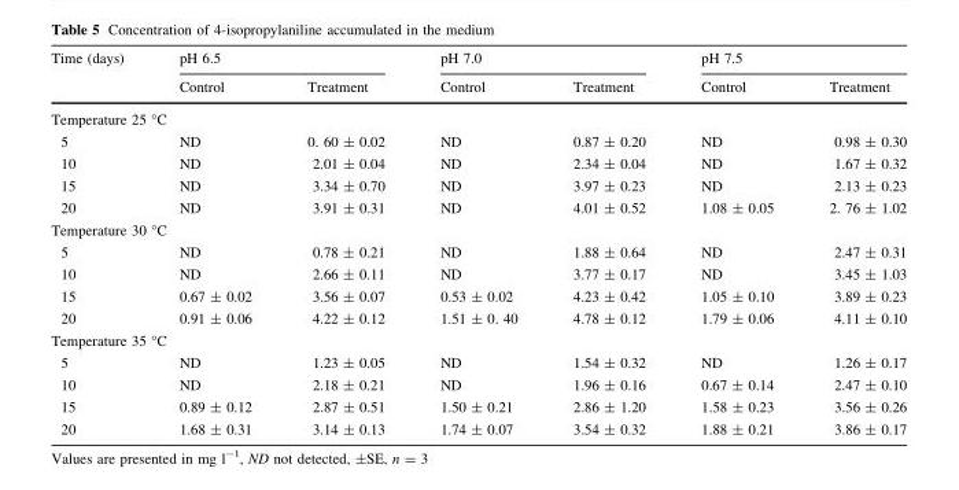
<table><thead><tr><td rowspan="2">Time (days)</td><td colspan="2">pH 6.5</td><td colspan="2">pH 7.0</td><td colspan="2">pH 7.5</td></tr><tr><td>Control</td><td>Treatment</td><td>Control</td><td>Treatment</td><td>Control</td><td>Treatment</td></tr></thead><tbody><tr><td colspan="7">Temperature 25 °C</td></tr><tr><td>5</td><td>ND</td><td>0. 60 ± 0.02</td><td>ND</td><td>0.87 ± 0.20</td><td>ND</td><td>0.98 ± 0.30</td></tr><tr><td>10</td><td>ND</td><td>2.01 ± 0.04</td><td>ND</td><td>2.34 ± 0.04</td><td>ND</td><td>1.67 ± 0.32</td></tr><tr><td>15</td><td>ND</td><td>3.34 ± 0.70</td><td>ND</td><td>3.97 ± 0.23</td><td>ND</td><td>2.13 ± 0.23</td></tr><tr><td>20</td><td>ND</td><td>3.91 ± 0.31</td><td>ND</td><td>4.01 ± 0.52</td><td>1.08 ± 0.05</td><td>2. 76 ± 1.02</td></tr><tr><td colspan="7">Temperature 30 °C</td></tr><tr><td>5</td><td>ND</td><td>0.78 ± 0.21</td><td>ND</td><td>1.88 ± 0.64</td><td>ND</td><td>2.47 ± 0.31</td></tr><tr><td>10</td><td>ND</td><td>2.66 ± 0.11</td><td>ND</td><td>3.77 ± 0.17</td><td>ND</td><td>3.45 ± 1.03</td></tr><tr><td>15</td><td>0.67 ± 0.02</td><td>3.56 ± 0.07</td><td>0.53 ± 0.02</td><td>4.23 ± 0.42</td><td>1.05 ± 0.10</td><td>3.89 ± 0.23</td></tr><tr><td>20</td><td>0.91 ± 0.06</td><td>4.22 ± 0.12</td><td>1.51 ± 0. 40</td><td>4.78 ± 0.12</td><td>1.79 ± 0.06</td><td>4.11 ± 0.10</td></tr><tr><td colspan="7">Temperature 35 °C</td></tr><tr><td>5</td><td>ND</td><td>1.23 ± 0.05</td><td>ND</td><td>1.54 ± 0.32</td><td>ND</td><td>1.26 ± 0.17</td></tr><tr><td>10</td><td>ND</td><td>2.18 ± 0.21</td><td>ND</td><td>1.96 ± 0.16</td><td>0.67 ± 0.14</td><td>2.47 ± 0.10</td></tr><tr><td>15</td><td>0.89 ± 0.12</td><td>2.87 ± 0.51</td><td>1.50 ± 0.21</td><td>2.86 ± 1.20</td><td>1.58 ± 0.23</td><td>3.56 ± 0.26</td></tr><tr><td>20</td><td>1.68 ± 0.31</td><td>3.14 ± 0.13</td><td>1.74 ± 0.07</td><td>3.54 ± 0.32</td><td>1.88 ± 0.21</td><td>3.86 ± 0.17</td></tr></tbody></table>